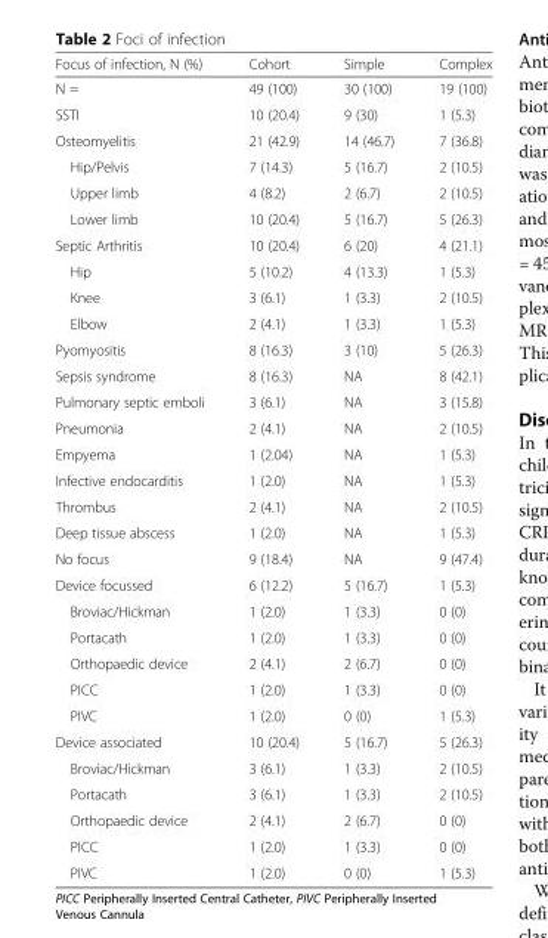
<table><thead><tr><td>Focus of infection, N (%)</td><td>Cohort</td><td>Simple</td><td>Complex</td></tr></thead><tbody><tr><td>N =</td><td>49 (100)</td><td>30 (100)</td><td>19 (100)</td></tr><tr><td>SSTI</td><td>10 (20.4)</td><td>9 (30)</td><td>1 (5.3)</td></tr><tr><td>Osteomyelitis</td><td>21 (42.9)</td><td>14 (46.7)</td><td>7 (36.8)</td></tr><tr><td>Hip/Pelvis</td><td>7 (14.3)</td><td>5 (16.7)</td><td>2 (10.5)</td></tr><tr><td>Upper limb</td><td>4 (8.2)</td><td>2 (6.7)</td><td>2 (10.5)</td></tr><tr><td>Lower limb</td><td>10 (20.4)</td><td>5 (16.7)</td><td>5 (26.3)</td></tr><tr><td>Septic Arthritis</td><td>10 (20.4)</td><td>6 (20)</td><td>4 (21.1)</td></tr><tr><td>Hip</td><td>5 (10.2)</td><td>4 (13.3)</td><td>1 (5.3)</td></tr><tr><td>Knee</td><td>3 (6.1)</td><td>1 (3.3)</td><td>2 (10.5)</td></tr><tr><td>Elbow</td><td>2 (4.1)</td><td>1 (3.3)</td><td>1 (5.3)</td></tr><tr><td>Pyomyositis</td><td>8 (16.3)</td><td>3 (10)</td><td>5 (26.3)</td></tr><tr><td>Sepsis syndrome</td><td>8 (16.3)</td><td>NA</td><td>8 (42.1)</td></tr><tr><td>Pulmonary septic emboli</td><td>3 (6.1)</td><td>NA</td><td>3 (15.8)</td></tr><tr><td>Pneumonia</td><td>2 (4.1)</td><td>NA</td><td>2 (10.5)</td></tr><tr><td>Empyema</td><td>1 (2.04)</td><td>NA</td><td>1 (5.3)</td></tr><tr><td>Infective endocarditis</td><td>1 (2.0)</td><td>NA</td><td>1 (5.3)</td></tr><tr><td>Thrombus</td><td>2 (4.1)</td><td>NA</td><td>2 (10.5)</td></tr><tr><td>Deep tissue abscess</td><td>1 (2.0)</td><td>NA</td><td>1 (5.3)</td></tr><tr><td>No focus</td><td>9 (18.4)</td><td>NA</td><td>9 (47.4)</td></tr><tr><td>Device focussed</td><td>6 (12.2)</td><td>5 (16.7)</td><td>1 (5.3)</td></tr><tr><td>Broviac/Hickman</td><td>1 (2.0)</td><td>1 (3.3)</td><td>0 (0)</td></tr><tr><td>Portacath</td><td>1 (2.0)</td><td>1 (3.3)</td><td>0 (0)</td></tr><tr><td>Orthopaedic device</td><td>2 (4.1)</td><td>2 (6.7)</td><td>0 (0)</td></tr><tr><td>PICC</td><td>1 (2.0)</td><td>1 (3.3)</td><td>0 (0)</td></tr><tr><td>PIVC</td><td>1 (2.0)</td><td>0 (0)</td><td>1 (5.3)</td></tr><tr><td>Device associated</td><td>10 (20.4)</td><td>5 (16.7)</td><td>5 (26.3)</td></tr><tr><td>Broviac/Hickman</td><td>3 (6.1)</td><td>1 (3.3)</td><td>2 (10.5)</td></tr><tr><td>Portacath</td><td>3 (6.1)</td><td>1 (3.3)</td><td>2 (10.5)</td></tr><tr><td>Orthopaedic device</td><td>2 (4.1)</td><td>2 (6.7)</td><td>0 (0)</td></tr><tr><td>PICC</td><td>1 (2.0)</td><td>1 (3.3)</td><td>0 (0)</td></tr><tr><td>PIVC</td><td>1 (2.0)</td><td>0 (0)</td><td>1 (5.3)</td></tr></tbody></table>